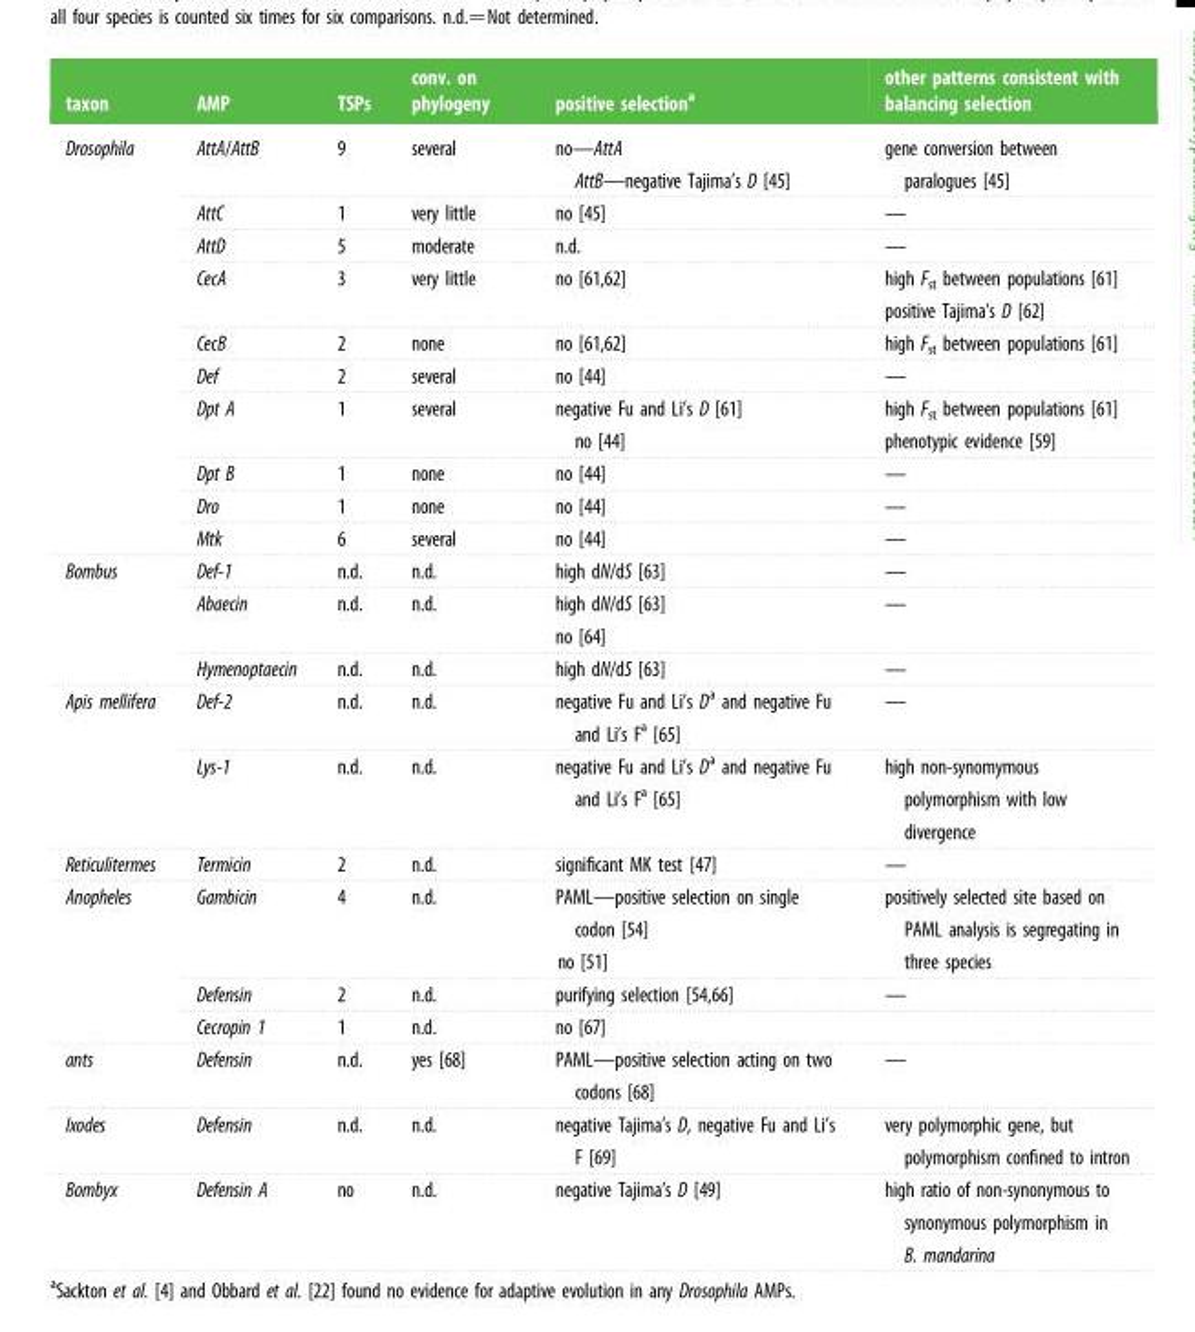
<table><thead><tr><td>taxon</td><td>AMP</td><td>TSPs</td><td>conv. on phylogeny</td><td>positive selection<sup>a</sup></td><td>other patterns consistent with balancing selection</td></tr></thead><tbody><tr><td rowspan="10">Drosophila</td><td>AttA/AttB</td><td>9</td><td>several</td><td>no—AttA AttB—negative Tajima’s D [45]</td><td>gene conversion between paralogues [45]</td></tr><tr><td>AttC</td><td>1</td><td>very little</td><td>no [45]</td><td>—</td></tr><tr><td>AttD</td><td>5</td><td>moderate</td><td>n.d.</td><td>—</td></tr><tr><td>CecA</td><td>3</td><td>very little</td><td>no [61,62]</td><td>high F<sub>st</sub> between populations [61] positive Tajima’s D [62]</td></tr><tr><td>CecB</td><td>2</td><td>none</td><td>no [61,62]</td><td>high F<sub>st</sub> between populations [61]</td></tr><tr><td>Def</td><td>2</td><td>several</td><td>no [44]</td><td>—</td></tr><tr><td>Dpt A</td><td>1</td><td>several</td><td>negative Fu and Li’s D [61] no [44]</td><td>high F<sub>st</sub> between populations [61] phenotypic evidence [59]</td></tr><tr><td>Dpt B</td><td>1</td><td>none</td><td>no [44]</td><td>—</td></tr><tr><td>Dro</td><td>1</td><td>none</td><td>no [44]</td><td>—</td></tr><tr><td>Mtk</td><td>6</td><td>several</td><td>no [44]</td><td>—</td></tr><tr><td rowspan="3">Bombus</td><td>Def-1</td><td>n.d.</td><td>n.d.</td><td>high dN/dS [63]</td><td>—</td></tr><tr><td>Abaecin</td><td>n.d.</td><td>n.d.</td><td>high dN/dS [63] no [64]</td><td>—</td></tr><tr><td>Hymenoptaecin</td><td>n.d.</td><td>n.d.</td><td>high dN/dS [63]</td><td>—</td></tr><tr><td rowspan="2">Apis mellifera</td><td>Def-2</td><td>n.d.</td><td>n.d.</td><td>negative Fu and Li’s D<sup>a</sup> and negative Fu and Li’s F<sup>a</sup> [65]</td><td>—</td></tr><tr><td>Lys-1</td><td>n.d.</td><td>n.d.</td><td>negative Fu and Li’s D<sup>a</sup> and negative Fu and Li’s F<sup>a</sup> [65]</td><td>high non-synomymous polymorphism with low divergence</td></tr><tr><td>Reticulitermes</td><td>Termicin</td><td>2</td><td>n.d.</td><td>significant MK test [47]</td><td>—</td></tr><tr><td rowspan="3">Anopheles</td><td>Gambicin</td><td>4</td><td>n.d.</td><td>PAML—positive selection on single codon [54] no [51]</td><td>positively selected site based on PAML analysis is segregating in three species</td></tr><tr><td>Defensin</td><td>2</td><td>n.d.</td><td>purifying selection [54,66]</td><td>—</td></tr><tr><td>Cecropin 1</td><td>1</td><td>n.d.</td><td>no [67]</td><td></td></tr><tr><td>ants</td><td>Defensin</td><td>n.d.</td><td>yes [68]</td><td>PAML—positive selection acting on two codons [68]</td><td>—</td></tr><tr><td>Ixodes</td><td>Defensin</td><td>n.d.</td><td>n.d.</td><td>negative Tajima’s D, negative Fu and Li’s F [69]</td><td>very polymorphic gene, but polymorphism confined to intron</td></tr><tr><td>Bombyx</td><td>Defensin A</td><td>no</td><td>n.d.</td><td>negative Tajima’s D [49]</td><td>high ratio of non-synonymous to synonymous polymorphism in B. mandarina</td></tr></tbody></table>